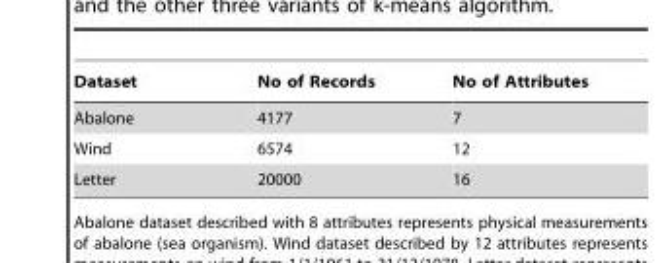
<table><thead><tr><td>Dataset</td><td>No of Records</td><td>No of Attributes</td></tr></thead><tbody><tr><td>Abalone</td><td>4177</td><td>7</td></tr><tr><td>Wind</td><td>6574</td><td>12</td></tr><tr><td>Letter</td><td>20000</td><td>16</td></tr></tbody></table>